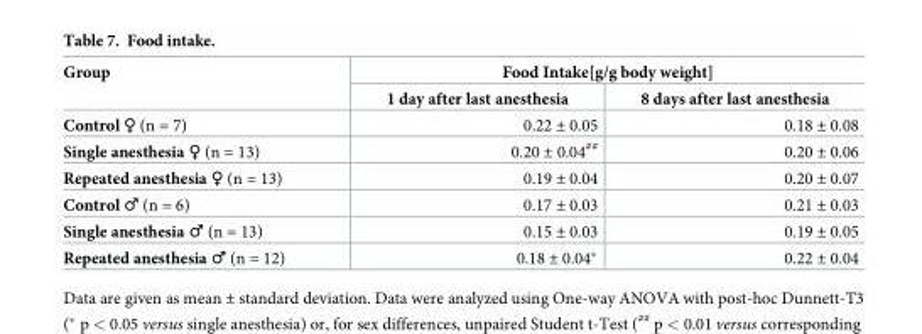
<table><thead><tr><td rowspan="2">Group</td><td colspan="2">Food Intake[g/g body weight]</td></tr><tr><td>1 day after last anesthesia</td><td>8 days after last anesthesia</td></tr></thead><tbody><tr><td>Control ♀ (n = 7)</td><td>0.22 ± 0.05</td><td>0.18 ± 0.08</td></tr><tr><td>Single anesthesia ♀ (n = 13)</td><td>0.20 ± 0.04<sup>##</sup></td><td>0.20 ± 0.06</td></tr><tr><td>Repeated anesthesia ♀ (n = 13)</td><td>0.19 ± 0.04</td><td>0.20 ± 0.07</td></tr><tr><td>Control ♂ (n = 6)</td><td>0.17 ± 0.03</td><td>0.21 ± 0.03</td></tr><tr><td>Single anesthesia ♂ (n = 13)</td><td>0.15 ± 0.03</td><td>0.19 ± 0.05</td></tr><tr><td>Repeated anesthesia ♂ (n = 12)</td><td>0.18 ± 0.04*</td><td>0.22 ± 0.04</td></tr></tbody></table>